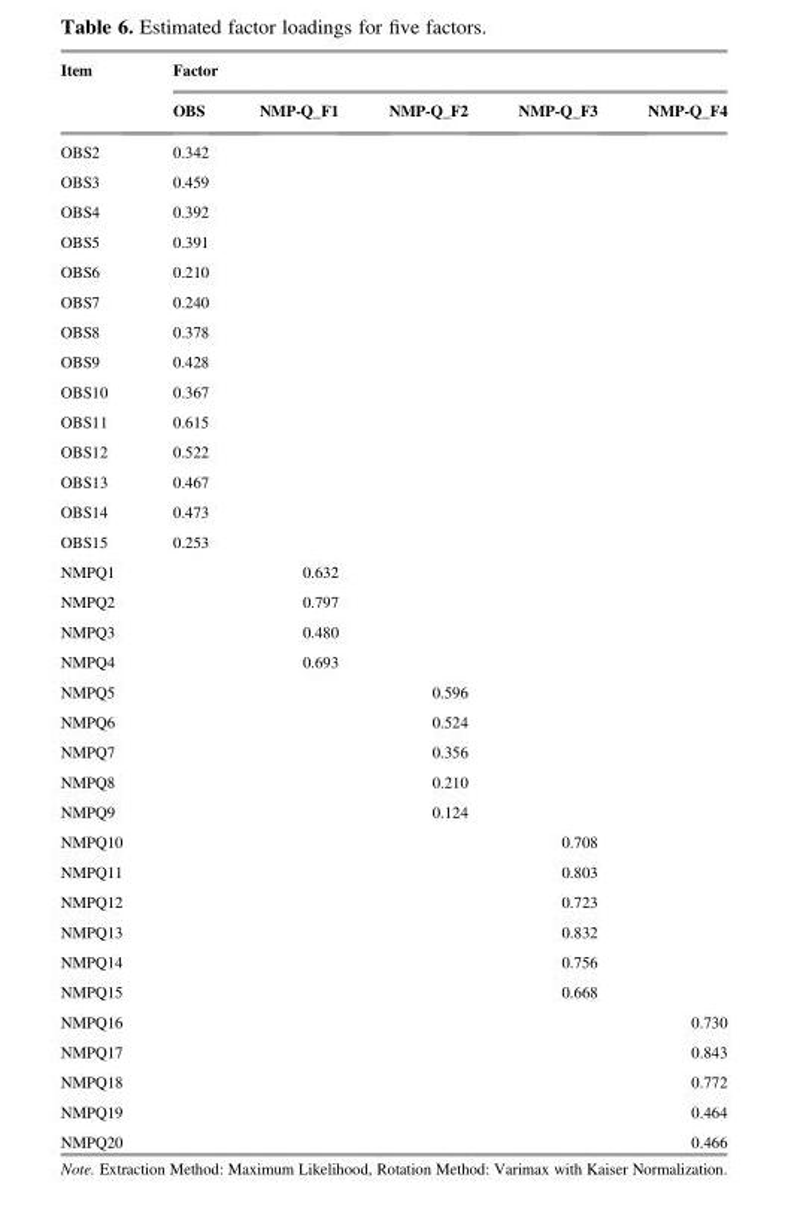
<table><thead><tr><td rowspan="2">Item</td><td colspan="5">Factor</td></tr><tr><td>OBS</td><td>NMP-Q_F1</td><td>NMP-Q_F2</td><td>NMP-Q_F3</td><td>NMP-Q_F4</td></tr></thead><tbody><tr><td>OBS2</td><td>0.342</td><td></td><td></td><td></td><td></td></tr><tr><td>OBS3</td><td>0.459</td><td></td><td></td><td></td><td></td></tr><tr><td>OBS4</td><td>0.392</td><td></td><td></td><td></td><td></td></tr><tr><td>OBS5</td><td>0.391</td><td></td><td></td><td></td><td></td></tr><tr><td>OBS6</td><td>0.210</td><td></td><td></td><td></td><td></td></tr><tr><td>OBS7</td><td>0.240</td><td></td><td></td><td></td><td></td></tr><tr><td>OBS8</td><td>0.378</td><td></td><td></td><td></td><td></td></tr><tr><td>OBS9</td><td>0.428</td><td></td><td></td><td></td><td></td></tr><tr><td>OBS10</td><td>0.367</td><td></td><td></td><td></td><td></td></tr><tr><td>OBS11</td><td>0.615</td><td></td><td></td><td></td><td></td></tr><tr><td>OBS12</td><td>0.522</td><td></td><td></td><td></td><td></td></tr><tr><td>OBS13</td><td>0.467</td><td></td><td></td><td></td><td></td></tr><tr><td>OBS14</td><td>0.473</td><td></td><td></td><td></td><td></td></tr><tr><td>OBS15</td><td>0.253</td><td></td><td></td><td></td><td></td></tr><tr><td>NMPQ1</td><td></td><td>0.632</td><td></td><td></td><td></td></tr><tr><td>NMPQ2</td><td></td><td>0.797</td><td></td><td></td><td></td></tr><tr><td>NMPQ3</td><td></td><td>0.480</td><td></td><td></td><td></td></tr><tr><td>NMPQ4</td><td></td><td>0.693</td><td></td><td></td><td></td></tr><tr><td>NMPQ5</td><td></td><td></td><td>0.596</td><td></td><td></td></tr><tr><td>NMPQ6</td><td></td><td></td><td>0.524</td><td></td><td></td></tr><tr><td>NMPQ7</td><td></td><td></td><td>0.356</td><td></td><td></td></tr><tr><td>NMPQ8</td><td></td><td></td><td>0.210</td><td></td><td></td></tr><tr><td>NMPQ9</td><td></td><td></td><td>0.124</td><td></td><td></td></tr><tr><td>NMPQ10</td><td></td><td></td><td></td><td>0.708</td><td></td></tr><tr><td>NMPQ11</td><td></td><td></td><td></td><td>0.803</td><td></td></tr><tr><td>NMPQ12</td><td></td><td></td><td></td><td>0.723</td><td></td></tr><tr><td>NMPQ13</td><td></td><td></td><td></td><td>0.832</td><td></td></tr><tr><td>NMPQ14</td><td></td><td></td><td></td><td>0.756</td><td></td></tr><tr><td>NMPQ15</td><td></td><td></td><td></td><td>0.668</td><td></td></tr><tr><td>NMPQ16</td><td></td><td></td><td></td><td></td><td>0.730</td></tr><tr><td>NMPQ17</td><td></td><td></td><td></td><td></td><td>0.843</td></tr><tr><td>NMPQ18</td><td></td><td></td><td></td><td></td><td>0.772</td></tr><tr><td>NMPQ19</td><td></td><td></td><td></td><td></td><td>0.464</td></tr><tr><td>NMPQ20</td><td></td><td></td><td></td><td></td><td>0.466</td></tr></tbody></table>